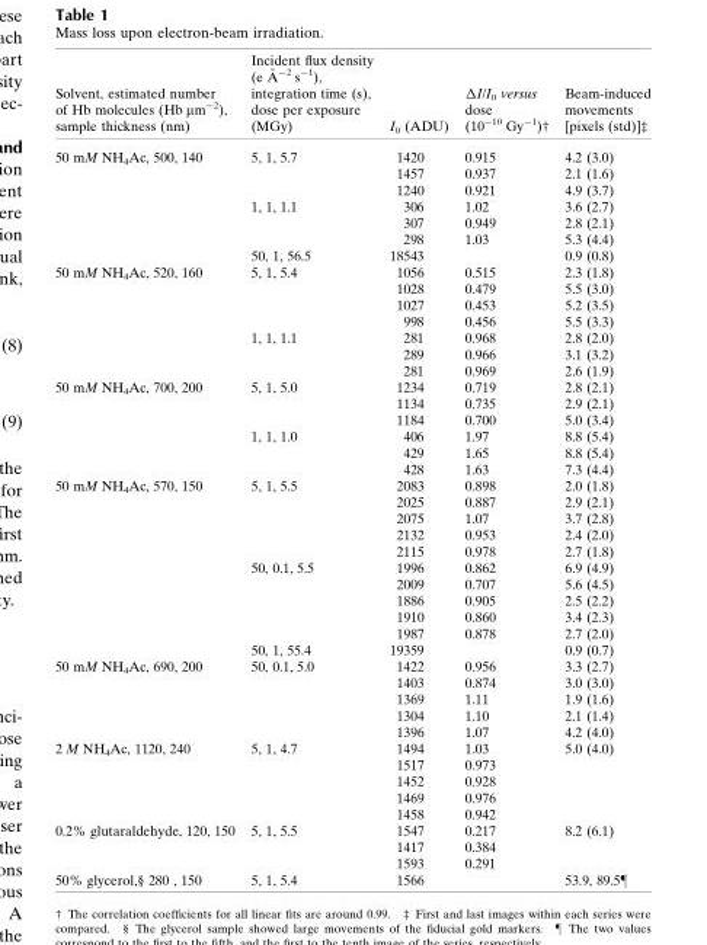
<table><thead><tr><td>Solvent, estimated number of Hb molecules (Hb µm<sup>−2</sup>), sample thickness (nm)</td><td>Incident flux density (e A˚ �2 s�1), integration time (s), dose per exposure (MGy)</td><td>I<sub>0</sub> (ADU)</td><td>ΔI/I<sub>0</sub> versus dose (10<sup>−10</sup> Gy<sup>−1</sup>)†</td><td>Beam-induced movements [pixels (std)]‡</td></tr></thead><tbody><tr><td rowspan="7">50 mM NH<sub>4</sub>Ac, 500, 140</td><td rowspan="3">5, 1, 5.7</td><td>1420</td><td>0.915</td><td>4.2 (3.0)</td></tr><tr><td>1457</td><td>0.937</td><td>2.1 (1.6)</td></tr><tr><td>1240</td><td>0.921</td><td>4.9 (3.7)</td></tr><tr><td rowspan="3">1, 1, 1.1</td><td>306</td><td>1.02</td><td>3.6 (2.7)</td></tr><tr><td>307</td><td>0.949</td><td>2.8 (2.1)</td></tr><tr><td>298</td><td>1.03</td><td>5.3 (4.4)</td></tr><tr><td>50, 1, 56.5</td><td>18543</td><td></td><td>0.9 (0.8)</td></tr><tr><td rowspan="7">50 mM NH<sub>4</sub>Ac, 520, 160</td><td rowspan="4">5, 1, 5.4</td><td>1056</td><td>0.515</td><td>2.3 (1.8)</td></tr><tr><td>1028</td><td>0.479</td><td>5.5 (3.0)</td></tr><tr><td>1027</td><td>0.453</td><td>5.2 (3.5)</td></tr><tr><td>998</td><td>0.456</td><td>5.5 (3.3)</td></tr><tr><td rowspan="3">1, 1, 1.1</td><td>281</td><td>0.968</td><td>2.8 (2.0)</td></tr><tr><td>289</td><td>0.966</td><td>3.1 (3.2)</td></tr><tr><td>281</td><td>0.969</td><td>2.6 (1.9)</td></tr><tr><td rowspan="6">50 mM NH<sub>4</sub>Ac, 700, 200</td><td rowspan="3">5, 1, 5.0</td><td>1234</td><td>0.719</td><td>2.8 (2.1)</td></tr><tr><td>1134</td><td>0.735</td><td>2.9 (2.1)</td></tr><tr><td>1184</td><td>0.700</td><td>5.0 (3.4)</td></tr><tr><td rowspan="3">1, 1, 1.0</td><td>406</td><td>1.97</td><td>8.8 (5.4)</td></tr><tr><td>429</td><td>1.65</td><td>8.8 (5.4)</td></tr><tr><td>428</td><td>1.63</td><td>7.3 (4.4)</td></tr><tr><td rowspan="11">50 mM NH<sub>4</sub>Ac, 570, 150</td><td rowspan="5">5, 1, 5.5</td><td>2083</td><td>0.898</td><td>2.0 (1.8)</td></tr><tr><td>2025</td><td>0.887</td><td>2.9 (2.1)</td></tr><tr><td>2075</td><td>1.07</td><td>3.7 (2.8)</td></tr><tr><td>2132</td><td>0.953</td><td>2.4 (2.0)</td></tr><tr><td>2115</td><td>0.978</td><td>2.7 (1.8)</td></tr><tr><td rowspan="5">50, 0.1, 5.5</td><td>1996</td><td>0.862</td><td>6.9 (4.9)</td></tr><tr><td>2009</td><td>0.707</td><td>5.6 (4.5)</td></tr><tr><td>1886</td><td>0.905</td><td>2.5 (2.2)</td></tr><tr><td>1910</td><td>0.860</td><td>3.4 (2.3)</td></tr><tr><td>1987</td><td>0.878</td><td>2.7 (2.0)</td></tr><tr><td>50, 1, 55.4</td><td>19359</td><td></td><td>0.9 (0.7)</td></tr><tr><td rowspan="5">50 mM NH<sub>4</sub>Ac, 690, 200</td><td rowspan="5">50, 0.1, 5.0</td><td>1422</td><td>0.956</td><td>3.3 (2.7)</td></tr><tr><td>1403</td><td>0.874</td><td>3.0 (3.0)</td></tr><tr><td>1369</td><td>1.11</td><td>1.9 (1.6)</td></tr><tr><td>1304</td><td>1.10</td><td>2.1 (1.4)</td></tr><tr><td>1396</td><td>1.07</td><td>4.2 (4.0)</td></tr><tr><td rowspan="5">2 M NH<sub>4</sub>Ac, 1120, 240</td><td rowspan="5">5, 1, 4.7</td><td>1494</td><td>1.03</td><td>5.0 (4.0)</td></tr><tr><td>1517</td><td>0.973</td><td></td></tr><tr><td>1452</td><td>0.928</td><td></td></tr><tr><td>1469</td><td>0.976</td><td></td></tr><tr><td>1458</td><td>0.942</td><td></td></tr><tr><td rowspan="3">0.2% glutaraldehyde, 120, 150</td><td rowspan="3">5, 1, 5.5</td><td>1547</td><td>0.217</td><td>8.2 (6.1)</td></tr><tr><td>1417</td><td>0.384</td><td></td></tr><tr><td>1593</td><td>0.291</td><td></td></tr><tr><td>50% glycerol,§ 280 , 150</td><td>5, 1, 5.4</td><td>1566</td><td></td><td>53.9, 89.5¶</td></tr></tbody></table>